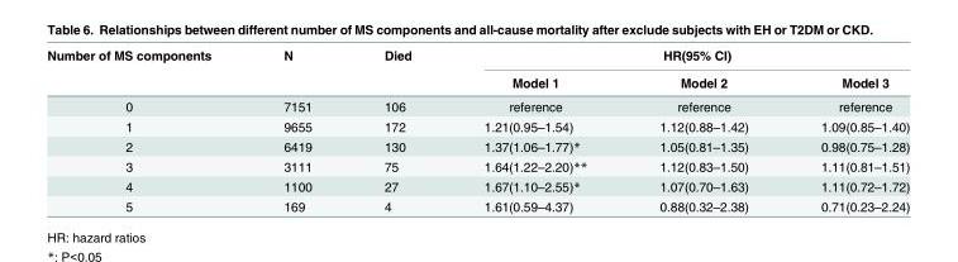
<table><thead><tr><td rowspan="2">Number of MS components</td><td rowspan="2">N</td><td rowspan="2">Died</td><td colspan="3">HR(95% CI)</td></tr><tr><td>Model 1</td><td>Model 2</td><td>Model 3</td></tr></thead><tbody><tr><td>0</td><td>7151</td><td>106</td><td>reference</td><td>reference</td><td>reference</td></tr><tr><td>1</td><td>9655</td><td>172</td><td>1.21(0.95–1.54)</td><td>1.12(0.88–1.42)</td><td>1.09(0.85–1.40)</td></tr><tr><td>2</td><td>6419</td><td>130</td><td>1.37(1.06–1.77)*</td><td>1.05(0.81–1.35)</td><td>0.98(0.75–1.28)</td></tr><tr><td>3</td><td>3111</td><td>75</td><td>1.64(1.22–2.20)**</td><td>1.12(0.83–1.50)</td><td>1.11(0.81–1.51)</td></tr><tr><td>4</td><td>1100</td><td>27</td><td>1.67(1.10–2.55)*</td><td>1.07(0.70–1.63)</td><td>1.11(0.72–1.72)</td></tr><tr><td>5</td><td>169</td><td>4</td><td>1.61(0.59–4.37)</td><td>0.88(0.32–2.38)</td><td>0.71(0.23–2.24)</td></tr></tbody></table>